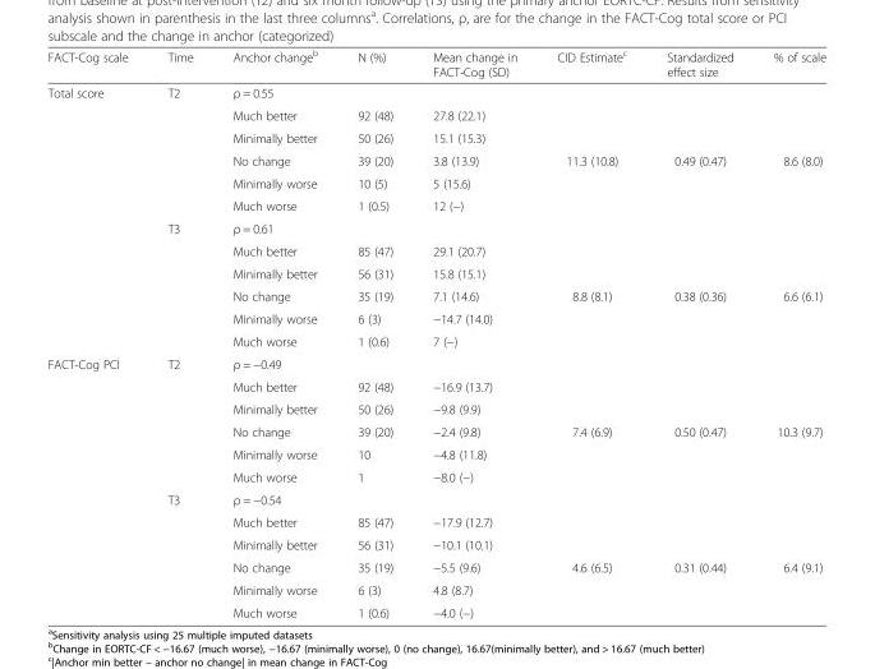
<table><thead><tr><td>FACT-Cog scale</td><td>Time</td><td>Anchor change<sup>b</sup></td><td>N (%)</td><td>Mean change in FACT-Cog (SD)</td><td>CID Estimate<sup>c</sup></td><td>Standardized effect size</td><td>% of scale</td></tr></thead><tbody><tr><td rowspan="12">Total score</td><td rowspan="6">T2</td><td colspan="5">ρ = 0.55</td><td></td></tr><tr><td>Much better</td><td>92 (48)</td><td>27.8 (22.1)</td><td></td><td></td><td></td></tr><tr><td>Minimally better</td><td>50 (26)</td><td>15.1 (15.3)</td><td></td><td></td><td></td></tr><tr><td>No change</td><td>39 (20)</td><td>3.8 (13.9)</td><td>11.3 (10.8)</td><td>0.49 (0.47)</td><td>8.6 (8.0)</td></tr><tr><td>Minimally worse</td><td>10 (5)</td><td>5 (15.6)</td><td></td><td></td><td></td></tr><tr><td>Much worse</td><td>1 (0.5)</td><td>12 (−)</td><td></td><td></td><td></td></tr><tr><td rowspan="6">T3</td><td colspan="5">ρ = 0.61</td><td></td></tr><tr><td>Much better</td><td>85 (47)</td><td>29.1 (20.7)</td><td></td><td></td><td></td></tr><tr><td>Minimally better</td><td>56 (31)</td><td>15.8 (15.1)</td><td></td><td></td><td></td></tr><tr><td>No change</td><td>35 (19)</td><td>7.1 (14.6)</td><td>8.8 (8.1)</td><td>0.38 (0.36)</td><td>6.6 (6.1)</td></tr><tr><td>Minimally worse</td><td>6 (3)</td><td>−14.7 (14.0)</td><td></td><td></td><td></td></tr><tr><td>Much worse</td><td>1 (0.6)</td><td>7 (−)</td><td></td><td></td><td></td></tr><tr><td rowspan="12">FACT-Cog PCI</td><td rowspan="6">T2</td><td colspan="5">ρ = −0.49</td><td></td></tr><tr><td>Much better</td><td>92 (48)</td><td>−16.9 (13.7)</td><td></td><td></td><td></td></tr><tr><td>Minimally better</td><td>50 (26)</td><td>−9.8 (9.9)</td><td></td><td></td><td></td></tr><tr><td>No change</td><td>39 (20)</td><td>−2.4 (9.8)</td><td>7.4 (6.9)</td><td>0.50 (0.47)</td><td>10.3 (9.7)</td></tr><tr><td>Minimally worse</td><td>10</td><td>−4.8 (11.8)</td><td></td><td></td><td></td></tr><tr><td>Much worse</td><td>1</td><td>−8.0 (−)</td><td></td><td></td><td></td></tr><tr><td rowspan="6">T3</td><td colspan="5">ρ = −0.54</td><td></td></tr><tr><td>Much better</td><td>85 (47)</td><td>−17.9 (12.7)</td><td></td><td></td><td></td></tr><tr><td>Minimally better</td><td>56 (31)</td><td>−10.1 (10.1)</td><td></td><td></td><td></td></tr><tr><td>No change</td><td>35 (19)</td><td>−5.5 (9.6)</td><td>4.6 (6.5)</td><td>0.31 (0.44)</td><td>6.4 (9.1)</td></tr><tr><td>Minimally worse</td><td>6 (3)</td><td>4.8 (8.7)</td><td></td><td></td><td></td></tr><tr><td>Much worse</td><td>1 (0.6)</td><td>−4.0 (−)</td><td></td><td></td><td></td></tr></tbody></table>